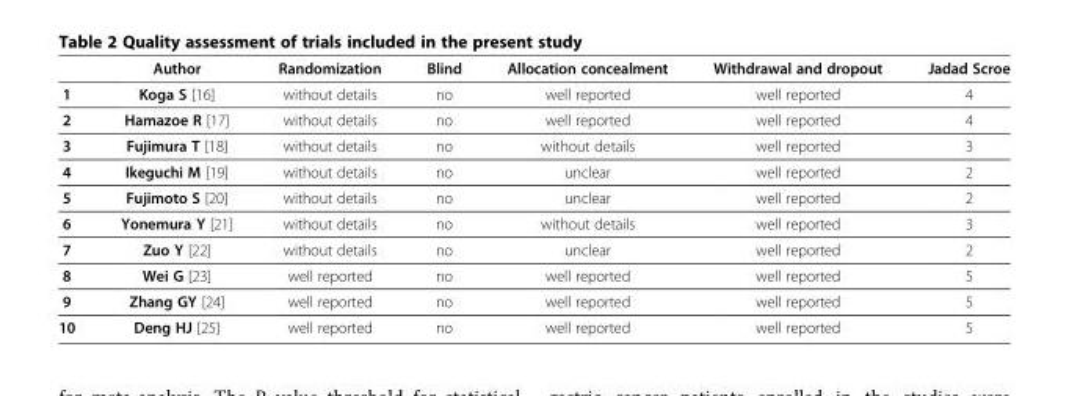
<table><thead><tr><td></td><td>Author</td><td>Randomization</td><td>Blind</td><td>Allocation concealment</td><td>Withdrawal and dropout</td><td>Jadad Scroe</td></tr></thead><tbody><tr><td>1</td><td>Koga S [16]</td><td>without details</td><td>no</td><td>well reported</td><td>well reported</td><td>4</td></tr><tr><td>2</td><td>Hamazoe R [17]</td><td>without details</td><td>no</td><td>well reported</td><td>well reported</td><td>4</td></tr><tr><td>3</td><td>Fujimura T [18]</td><td>without details</td><td>no</td><td>without details</td><td>well reported</td><td>3</td></tr><tr><td>4</td><td>Ikeguchi M [19]</td><td>without details</td><td>no</td><td>unclear</td><td>well reported</td><td>2</td></tr><tr><td>5</td><td>Fujimoto S [20]</td><td>without details</td><td>no</td><td>unclear</td><td>well reported</td><td>2</td></tr><tr><td>6</td><td>Yonemura Y [21]</td><td>without details</td><td>no</td><td>without details</td><td>well reported</td><td>3</td></tr><tr><td>7</td><td>Zuo Y [22]</td><td>without details</td><td>no</td><td>unclear</td><td>well reported</td><td>2</td></tr><tr><td>8</td><td>Wei G [23]</td><td>well reported</td><td>no</td><td>well reported</td><td>well reported</td><td>5</td></tr><tr><td>9</td><td>Zhang GY [24]</td><td>well reported</td><td>no</td><td>well reported</td><td>well reported</td><td>5</td></tr><tr><td>10</td><td>Deng HJ [25]</td><td>well reported</td><td>no</td><td>well reported</td><td>well reported</td><td>5</td></tr></tbody></table>